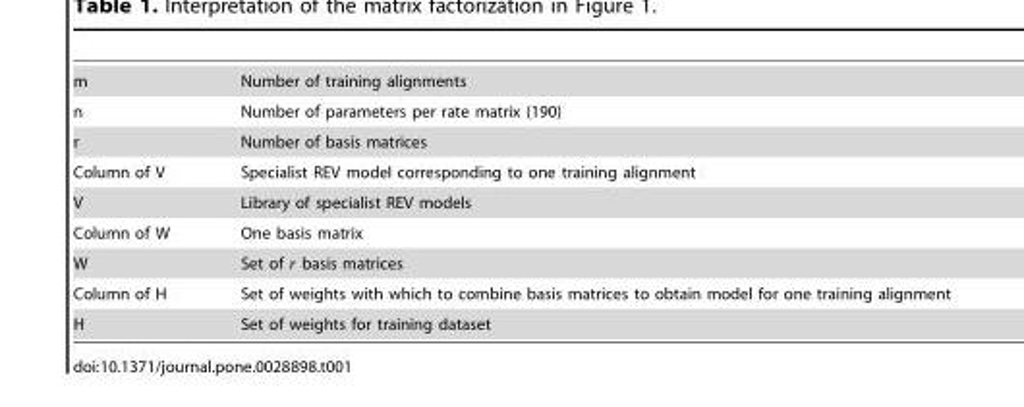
<table><tbody><tr><td>m</td><td>Number of training alignments</td></tr><tr><td>n</td><td>Number of parameters per rate matrix (190)</td></tr><tr><td>r</td><td>Number of basis matrices</td></tr><tr><td>Column of V</td><td>Specialist REV model corresponding to one training alignment</td></tr><tr><td>V</td><td>Library of specialist REV models</td></tr><tr><td>Column of W</td><td>One basis matrix</td></tr><tr><td>W</td><td>Set of r basis matrices</td></tr><tr><td>Column of H</td><td>Set of weights with which to combine basis matrices to obtain model for one training alignment</td></tr><tr><td>H</td><td>Set of weights for training dataset</td></tr></tbody></table>